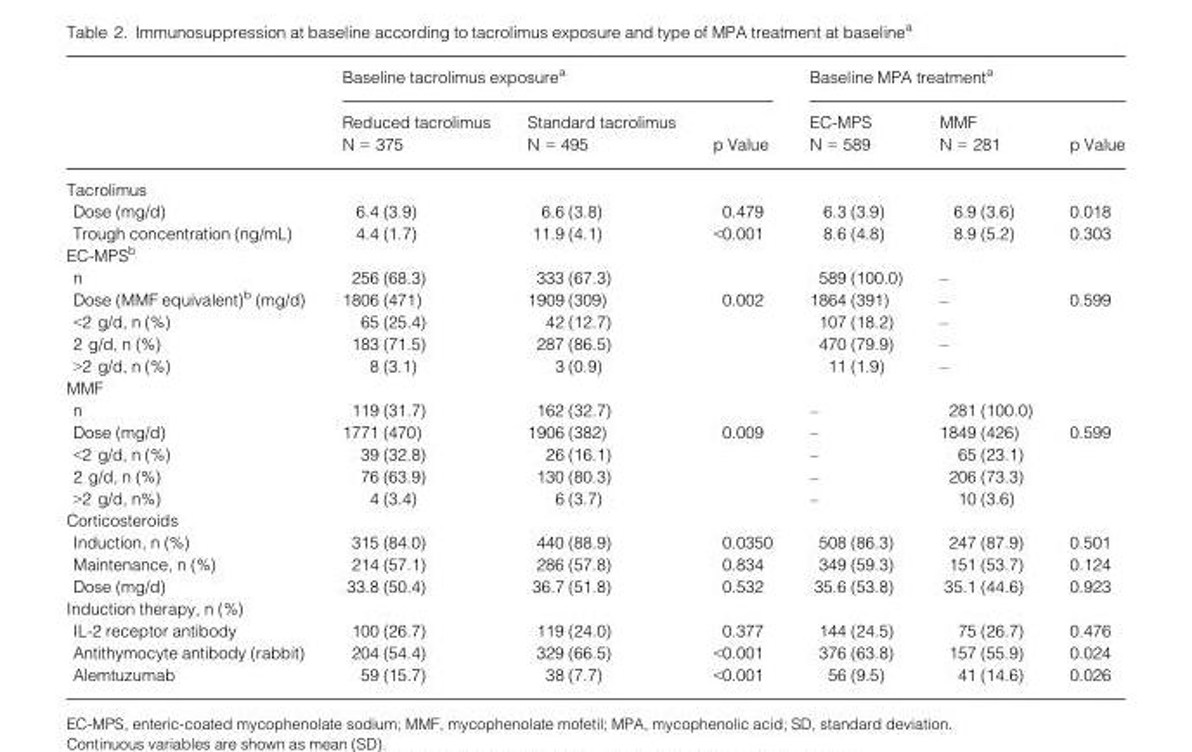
<table><thead><tr><td rowspan="2"></td><td colspan="3">Baseline tacrolimus exposure<sup>a</sup></td><td colspan="3">Baseline MPA treatment<sup>a</sup></td></tr><tr><td>Reduced tacrolimus N = 375</td><td>Standard tacrolimus N = 495</td><td>p Value</td><td>EC-MPS N = 589</td><td>MMF N = 281</td><td>p Value</td></tr></thead><tbody><tr><td colspan="7">Tacrolimus</td></tr><tr><td>Dose (mg/d)</td><td>6.4 (3.9)</td><td>6.6 (3.8)</td><td>0.479</td><td>6.3 (3.9)</td><td>6.9 (3.6)</td><td>0.018</td></tr><tr><td>Trough concentration (ng/mL)</td><td>4.4 (1.7)</td><td>11.9 (4.1)</td><td>&lt;0.001</td><td>8.6 (4.8)</td><td>8.9 (5.2)</td><td>0.303</td></tr><tr><td colspan="7">EC-MPS<sup>b</sup></td></tr><tr><td>n</td><td>256 (68.3)</td><td>333 (67.3)</td><td></td><td>589 (100.0)</td><td>–</td><td></td></tr><tr><td>Dose (MMF equivalent)<sup>b</sup> (mg/d)</td><td>1806 (471)</td><td>1909 (309)</td><td>0.002</td><td>1864 (391)</td><td>–</td><td>0.599</td></tr><tr><td>&lt;2 g/d, n (%)</td><td>65 (25.4)</td><td>42 (12.7)</td><td></td><td>107 (18.2)</td><td>–</td><td></td></tr><tr><td>2 g/d, n (%)</td><td>183 (71.5)</td><td>287 (86.5)</td><td></td><td>470 (79.9)</td><td>–</td><td></td></tr><tr><td>&gt;2 g/d, n (%)</td><td>8 (3.1)</td><td>3 (0.9)</td><td></td><td>11 (1.9)</td><td>–</td><td></td></tr><tr><td colspan="7">MMF</td></tr><tr><td>n</td><td>119 (31.7)</td><td>162 (32.7)</td><td></td><td>–</td><td>281 (100.0)</td><td></td></tr><tr><td>Dose (mg/d)</td><td>1771 (470)</td><td>1906 (382)</td><td>0.009</td><td>–</td><td>1849 (426)</td><td>0.599</td></tr><tr><td>&lt;2 g/d, n (%)</td><td>39 (32.8)</td><td>26 (16.1)</td><td></td><td>–</td><td>65 (23.1)</td><td></td></tr><tr><td>2 g/d, n (%)</td><td>76 (63.9)</td><td>130 (80.3)</td><td></td><td>–</td><td>206 (73.3)</td><td></td></tr><tr><td>&gt;2 g/d, n%)</td><td>4 (3.4)</td><td>6 (3.7)</td><td></td><td>–</td><td>10 (3.6)</td><td></td></tr><tr><td colspan="7">Corticosteroids</td></tr><tr><td>Induction, n (%)</td><td>315 (84.0)</td><td>440 (88.9)</td><td>0.0350</td><td>508 (86.3)</td><td>247 (87.9)</td><td>0.501</td></tr><tr><td>Maintenance, n (%)</td><td>214 (57.1)</td><td>286 (57.8)</td><td>0.834</td><td>349 (59.3)</td><td>151 (53.7)</td><td>0.124</td></tr><tr><td>Dose (mg/d)</td><td>33.8 (50.4)</td><td>36.7 (51.8)</td><td>0.532</td><td>35.6 (53.8)</td><td>35.1 (44.6)</td><td>0.923</td></tr><tr><td colspan="7">Induction therapy, n (%)</td></tr><tr><td>IL-2 receptor antibody</td><td>100 (26.7)</td><td>119 (24.0)</td><td>0.377</td><td>144 (24.5)</td><td>75 (26.7)</td><td>0.476</td></tr><tr><td>Antithymocyte antibody (rabbit)</td><td>204 (54.4)</td><td>329 (66.5)</td><td>&lt;0.001</td><td>376 (63.8)</td><td>157 (55.9)</td><td>0.024</td></tr><tr><td>Alemtuzumab</td><td>59 (15.7)</td><td>38 (7.7)</td><td>&lt;0.001</td><td>56 (9.5)</td><td>41 (14.6)</td><td>0.026</td></tr></tbody></table>